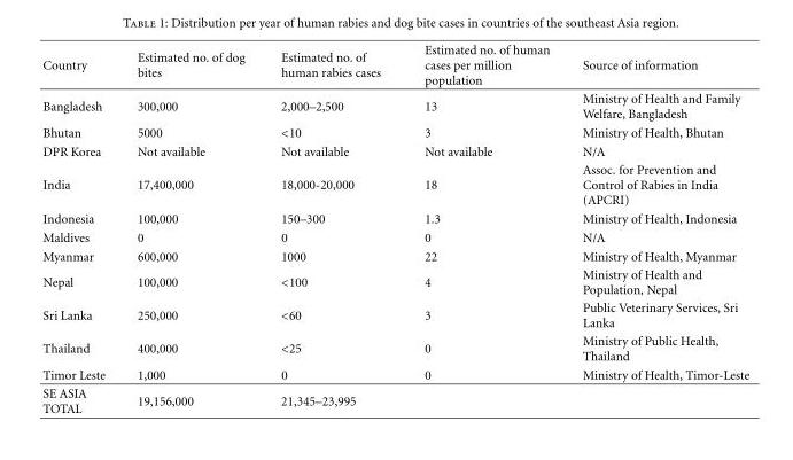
<table><thead><tr><td>Country</td><td>Estimated no. of dog bites</td><td>Estimated no. of human rabies cases</td><td>Estimated no. of human cases per million population</td><td>Source of information</td></tr></thead><tbody><tr><td>Bangladesh</td><td>300,000</td><td>2,000–2,500</td><td>13</td><td>Ministry of Health and Family Welfare, Bangladesh</td></tr><tr><td>Bhutan</td><td>5000</td><td>&lt;10</td><td>3</td><td>Ministry of Health, Bhutan</td></tr><tr><td>DPR Korea</td><td>Not available</td><td>Not available</td><td>Not available</td><td>N/A</td></tr><tr><td>India</td><td>17,400,000</td><td>18,000-20,000</td><td>18</td><td>Assoc. for Prevention and Control of Rabies in India (APCRI)</td></tr><tr><td>Indonesia</td><td>100,000</td><td>150–300</td><td>1.3</td><td>Ministry of Health, Indonesia</td></tr><tr><td>Maldives</td><td>0</td><td>0</td><td>0</td><td>N/A</td></tr><tr><td>Myanmar</td><td>600,000</td><td>1000</td><td>22</td><td>Ministry of Health, Myanmar</td></tr><tr><td>Nepal</td><td>100,000</td><td>&lt;100</td><td>4</td><td>Ministry of Health and Population, Nepal</td></tr><tr><td>Sri Lanka</td><td>250,000</td><td>&lt;60</td><td>3</td><td>Public Veterinary Services, Sri Lanka</td></tr><tr><td>Thailand</td><td>400,000</td><td>&lt;25</td><td>0</td><td>Ministry of Public Health, Thailand</td></tr><tr><td>Timor Leste</td><td>1,000</td><td>0</td><td>0</td><td>Ministry of Health, Timor-Leste</td></tr><tr><td>SE ASIA TOTAL</td><td>19,156,000</td><td>21,345–23,995</td><td></td><td></td></tr></tbody></table>